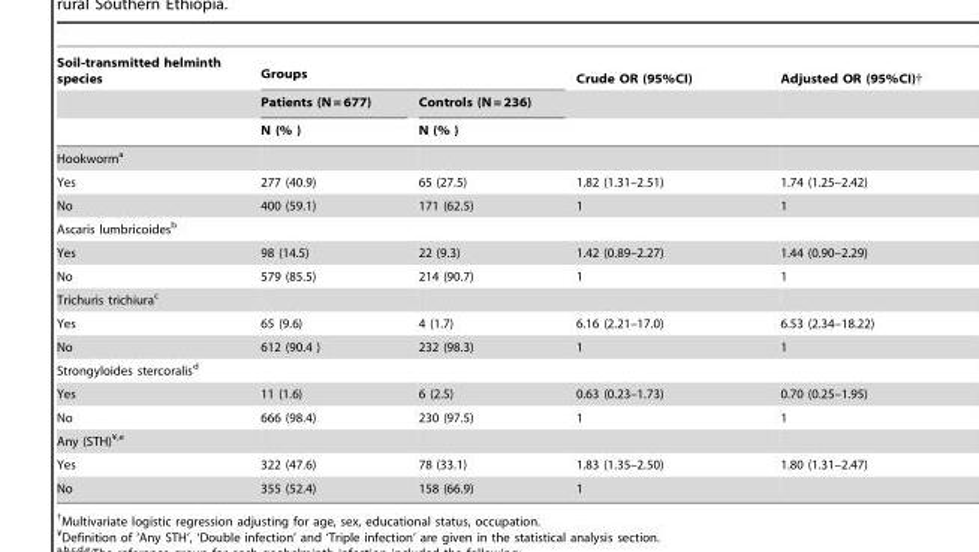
<table><thead><tr><td rowspan="3">Soil-transmitted helminth species</td><td colspan="2">Groups</td><td rowspan="3">Crude OR (95%CI)</td><td rowspan="3">Adjusted OR (95%CI)†</td></tr><tr><td rowspan="2">Patients (N = 677) N (% )</td><td rowspan="2">Controls (N = 236) N (% )</td></tr><tr></tr></thead><tbody><tr><td colspan="5">Hookworm<sup>a</sup></td></tr><tr><td>Yes</td><td>277 (40.9)</td><td>65 (27.5)</td><td>1.82 (1.31–2.51)</td><td>1.74 (1.25–2.42)</td></tr><tr><td>No</td><td>400 (59.1)</td><td>171 (62.5)</td><td>1</td><td>1</td></tr><tr><td colspan="5">Ascaris lumbricoides<sup>b</sup></td></tr><tr><td>Yes</td><td>98 (14.5)</td><td>22 (9.3)</td><td>1.42 (0.89–2.27)</td><td>1.44 (0.90–2.29)</td></tr><tr><td>No</td><td>579 (85.5)</td><td>214 (90.7)</td><td>1</td><td>1</td></tr><tr><td colspan="5">Trichuris trichiura<sup>c</sup></td></tr><tr><td>Yes</td><td>65 (9.6)</td><td>4 (1.7)</td><td>6.16 (2.21–17.0)</td><td>6.53 (2.34–18.22)</td></tr><tr><td>No</td><td>612 (90.4 )</td><td>232 (98.3)</td><td>1</td><td>1</td></tr><tr><td colspan="5">Strongyloides stercoralis<sup>d</sup></td></tr><tr><td>Yes</td><td>11 (1.6)</td><td>6 (2.5)</td><td>0.63 (0.23–1.73)</td><td>0.70 (0.25–1.95)</td></tr><tr><td>No</td><td>666 (98.4)</td><td>230 (97.5)</td><td>1</td><td>1</td></tr><tr><td colspan="5">Any (STH)¥<sup>,</sup>e</td></tr><tr><td>Yes</td><td>322 (47.6)</td><td>78 (33.1)</td><td>1.83 (1.35–2.50)</td><td>1.80 (1.31–2.47)</td></tr><tr><td>No</td><td>355 (52.4)</td><td>158 (66.9)</td><td>1</td><td></td></tr></tbody></table>